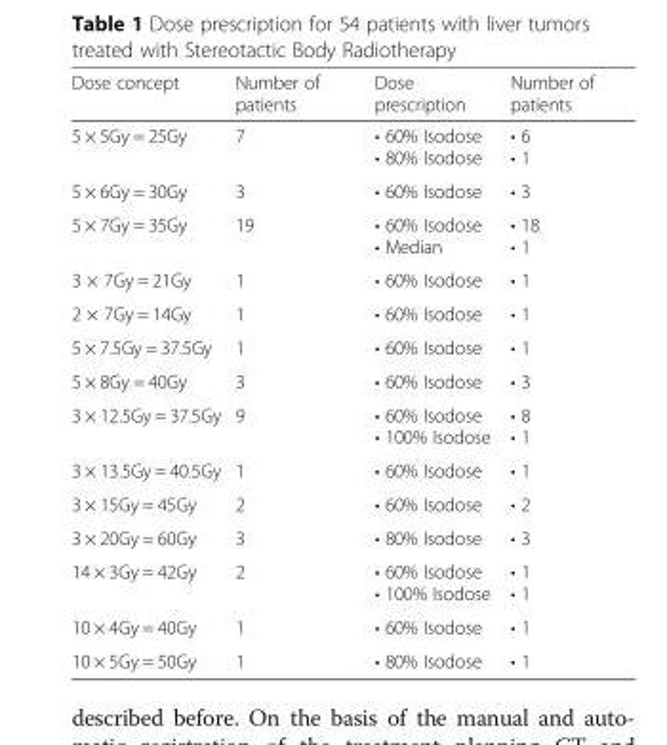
<table><thead><tr><td>Dose concept</td><td>Number of patients</td><td>Dose prescription</td><td>Number of patients</td></tr></thead><tbody><tr><td>5 × 5Gy = 25Gy</td><td>7</td><td>• 60% Isodose • 80% Isodose</td><td>• 6 • 1</td></tr><tr><td>5 × 6Gy = 30Gy</td><td>3</td><td>• 60% Isodose</td><td>• 3</td></tr><tr><td>5 × 7Gy = 35Gy</td><td>19</td><td>• 60% Isodose • Median</td><td>• 18 • 1</td></tr><tr><td>3 × 7Gy = 21Gy</td><td>1</td><td>• 60% Isodose</td><td>• 1</td></tr><tr><td>2 × 7Gy = 14Gy</td><td>1</td><td>• 60% Isodose</td><td>• 1</td></tr><tr><td>5 × 7.5Gy = 37.5Gy</td><td>1</td><td>• 60% Isodose</td><td>• 1</td></tr><tr><td>5 × 8Gy = 40Gy</td><td>3</td><td>• 60% Isodose</td><td>• 3</td></tr><tr><td>3 × 12.5Gy = 37.5Gy</td><td>9</td><td>• 60% Isodose • 100% Isodose</td><td>• 8 • 1</td></tr><tr><td>3 × 13.5Gy = 40.5Gy</td><td>1</td><td>• 60% Isodose</td><td>• 1</td></tr><tr><td>3 × 15Gy = 45Gy</td><td>2</td><td>• 60% Isodose</td><td>• 2</td></tr><tr><td>3 × 20Gy = 60Gy</td><td>3</td><td>• 80% Isodose</td><td>• 3</td></tr><tr><td>14 × 3Gy = 42Gy</td><td>2</td><td>• 60% Isodose • 100% Isodose</td><td>• 1 • 1</td></tr><tr><td>10 × 4Gy = 40Gy</td><td>1</td><td>• 60% Isodose</td><td>• 1</td></tr><tr><td>10 × 5Gy = 50Gy</td><td>1</td><td>• 80% Isodose</td><td>• 1</td></tr></tbody></table>